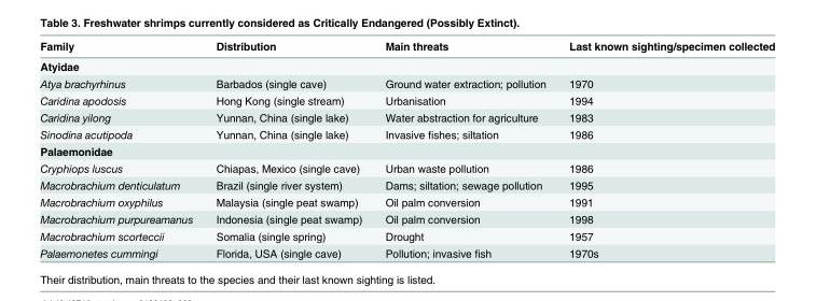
<table><thead><tr><td>Family</td><td>Distribution</td><td>Main threats</td><td>Last known sighting/specimen collected</td></tr></thead><tbody><tr><td colspan="4">Atyidae</td></tr><tr><td>Atya brachyrhinus</td><td>Barbados (single cave)</td><td>Ground water extraction; pollution</td><td>1970</td></tr><tr><td>Caridina apodosis</td><td>Hong Kong (single stream)</td><td>Urbanisation</td><td>1994</td></tr><tr><td>Caridina yilong</td><td>Yunnan, China (single lake)</td><td>Water abstraction for agriculture</td><td>1983</td></tr><tr><td>Sinodina acutipoda</td><td>Yunnan, China (single lake)</td><td>Invasive fishes; siltation</td><td>1986</td></tr><tr><td colspan="4">Palaemonidae</td></tr><tr><td>Cryphiops luscus</td><td>Chiapas, Mexico (single cave)</td><td>Urban waste pollution</td><td>1986</td></tr><tr><td>Macrobrachium denticulatum</td><td>Brazil (single river system)</td><td>Dams; siltation; sewage pollution</td><td>1995</td></tr><tr><td>Macrobrachium oxyphilus</td><td>Malaysia (single peat swamp)</td><td>Oil palm conversion</td><td>1991</td></tr><tr><td>Macrobrachium purpureamanus</td><td>Indonesia (single peat swamp)</td><td>Oil palm conversion</td><td>1998</td></tr><tr><td>Macrobrachium scorteccii</td><td>Somalia (single spring)</td><td>Drought</td><td>1957</td></tr><tr><td>Palaemonetes cummingi</td><td>Florida, USA (single cave)</td><td>Pollution; invasive fish</td><td>1970s</td></tr></tbody></table>